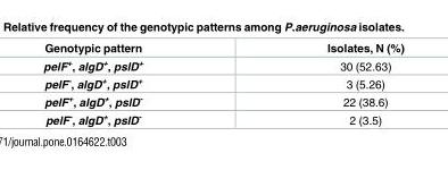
<table><thead><tr><td>Genotypic pattern</td><td>Isolates, N (%)</td></tr></thead><tbody><tr><td>pelF<sup>+</sup>, algD<sup>+</sup>, pslD<sup>+</sup></td><td>30 (52.63)</td></tr><tr><td>pelF<sup>-</sup>, algD<sup>+</sup>, pslD<sup>+</sup></td><td>3 (5.26)</td></tr><tr><td>pelF<sup>+</sup>, algD<sup>+</sup>, pslD<sup>-</sup></td><td>22 (38.6)</td></tr><tr><td>pelF<sup>-</sup>, algD<sup>+</sup>, pslD<sup>-</sup></td><td>2 (3.5)</td></tr></tbody></table>